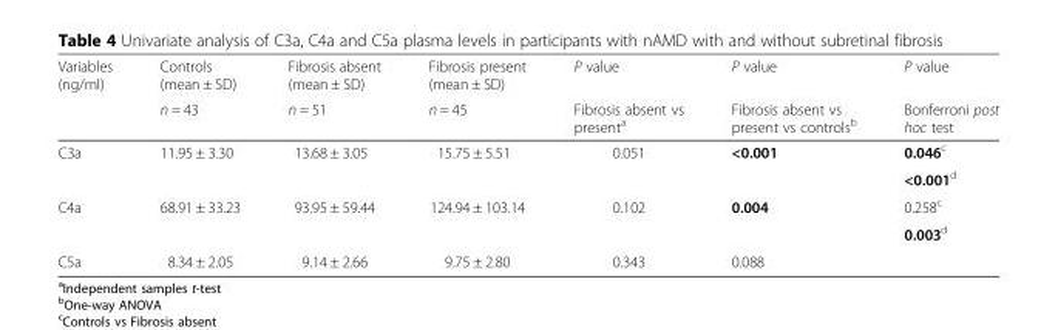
<table><thead><tr><td rowspan="2">Variables (ng/ml)</td><td rowspan="2">Controls (mean ± SD) n = 43</td><td rowspan="2">Fibrosis absent (mean ± SD) n = 51</td><td rowspan="2">Fibrosis present (mean ± SD) n = 45</td><td rowspan="2">P value Fibrosis absent vs present<sup>a</sup></td><td rowspan="2">P value Fibrosis absent vs present vs controls<sup>b</sup></td><td rowspan="2">P value Bonferroni post hoc test</td></tr><tr></tr></thead><tbody><tr><td rowspan="2">C3a</td><td rowspan="2">11.95 ± 3.30</td><td rowspan="2">13.68 ± 3.05</td><td rowspan="2">15.75 ± 5.51</td><td rowspan="2">0.051</td><td rowspan="2">&lt;0.001</td><td>0.046<sup>c</sup></td></tr><tr><td>&lt;0.001<sup>d</sup></td></tr><tr><td rowspan="2">C4a</td><td rowspan="2">68.91 ± 33.23</td><td rowspan="2">93.95 ± 59.44</td><td rowspan="2">124.94 ± 103.14</td><td rowspan="2">0.102</td><td rowspan="2">0.004</td><td>0.258<sup>c</sup></td></tr><tr><td>0.003<sup>d</sup></td></tr><tr><td>C5a</td><td>8.34 ± 2.05</td><td>9.14 ± 2.66</td><td>9.75 ± 2.80</td><td>0.343</td><td>0.088</td><td></td></tr></tbody></table>